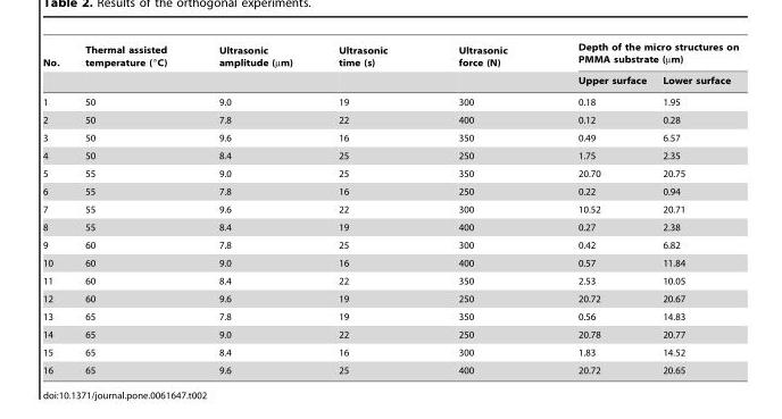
<table><thead><tr><td rowspan="2">No.</td><td rowspan="2">Thermal assisted temperature (°C)</td><td rowspan="2">Ultrasonic amplitude (µm)</td><td rowspan="2">Ultrasonic time (s)</td><td rowspan="2">Ultrasonic force (N)</td><td colspan="2">Depth of the micro structures on PMMA substrate (µm)</td></tr><tr><td>Upper surface</td><td>Lower surface</td></tr></thead><tbody><tr><td>1</td><td>50</td><td>9.0</td><td>19</td><td>300</td><td>0.18</td><td>1.95</td></tr><tr><td>2</td><td>50</td><td>7.8</td><td>22</td><td>400</td><td>0.12</td><td>0.28</td></tr><tr><td>3</td><td>50</td><td>9.6</td><td>16</td><td>350</td><td>0.49</td><td>6.57</td></tr><tr><td>4</td><td>50</td><td>8.4</td><td>25</td><td>250</td><td>1.75</td><td>2.35</td></tr><tr><td>5</td><td>55</td><td>9.0</td><td>25</td><td>350</td><td>20.70</td><td>20.75</td></tr><tr><td>6</td><td>55</td><td>7.8</td><td>16</td><td>250</td><td>0.22</td><td>0.94</td></tr><tr><td>7</td><td>55</td><td>9.6</td><td>22</td><td>300</td><td>10.52</td><td>20.71</td></tr><tr><td>8</td><td>55</td><td>8.4</td><td>19</td><td>400</td><td>0.27</td><td>2.38</td></tr><tr><td>9</td><td>60</td><td>7.8</td><td>25</td><td>300</td><td>0.42</td><td>6.82</td></tr><tr><td>10</td><td>60</td><td>9.0</td><td>16</td><td>400</td><td>0.57</td><td>11.84</td></tr><tr><td>11</td><td>60</td><td>8.4</td><td>22</td><td>350</td><td>2.53</td><td>10.05</td></tr><tr><td>12</td><td>60</td><td>9.6</td><td>19</td><td>250</td><td>20.72</td><td>20.67</td></tr><tr><td>13</td><td>65</td><td>7.8</td><td>19</td><td>350</td><td>0.56</td><td>14.83</td></tr><tr><td>14</td><td>65</td><td>9.0</td><td>22</td><td>250</td><td>20.78</td><td>20.77</td></tr><tr><td>15</td><td>65</td><td>8.4</td><td>16</td><td>300</td><td>1.83</td><td>14.52</td></tr><tr><td>16</td><td>65</td><td>9.6</td><td>25</td><td>400</td><td>20.72</td><td>20.65</td></tr></tbody></table>